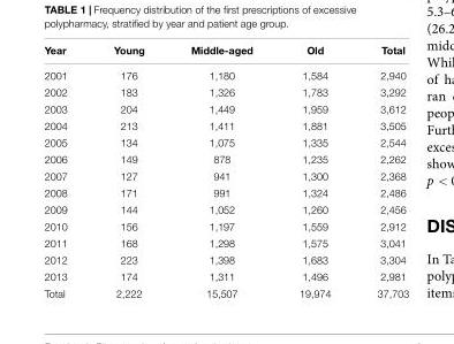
<table><thead><tr><td>Year</td><td>Young</td><td>Middle-aged</td><td>Old</td><td>Total</td></tr></thead><tbody><tr><td>2001</td><td>176</td><td>1,180</td><td>1,584</td><td>2,940</td></tr><tr><td>2002</td><td>183</td><td>1,326</td><td>1,783</td><td>3,292</td></tr><tr><td>2003</td><td>204</td><td>1,449</td><td>1,959</td><td>3,612</td></tr><tr><td>2004</td><td>213</td><td>1,411</td><td>1,881</td><td>3,505</td></tr><tr><td>2005</td><td>134</td><td>1,075</td><td>1,335</td><td>2,544</td></tr><tr><td>2006</td><td>149</td><td>878</td><td>1,235</td><td>2,262</td></tr><tr><td>2007</td><td>127</td><td>941</td><td>1,300</td><td>2,368</td></tr><tr><td>2008</td><td>171</td><td>991</td><td>1,324</td><td>2,486</td></tr><tr><td>2009</td><td>144</td><td>1,052</td><td>1,260</td><td>2,456</td></tr><tr><td>2010</td><td>156</td><td>1,197</td><td>1,559</td><td>2,912</td></tr><tr><td>2011</td><td>168</td><td>1,298</td><td>1,575</td><td>3,041</td></tr><tr><td>2012</td><td>223</td><td>1,398</td><td>1,683</td><td>3,304</td></tr><tr><td>2013</td><td>174</td><td>1,311</td><td>1,496</td><td>2,981</td></tr><tr><td>Total</td><td>2,222</td><td>15,507</td><td>19,974</td><td>37,703</td></tr></tbody></table>